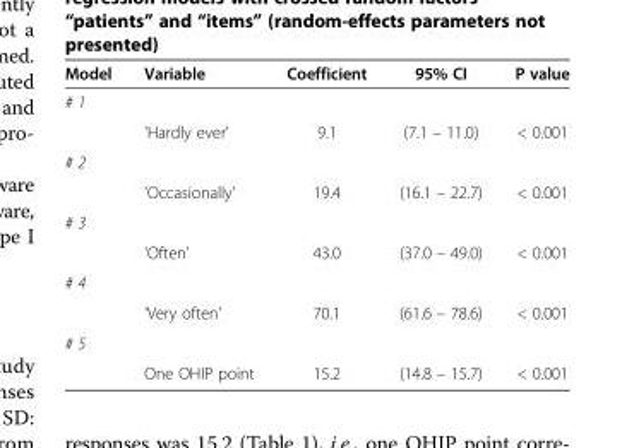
<table><thead><tr><td>Model</td><td>Variable</td><td>Coefficient</td><td>95% CI</td><td>P value</td></tr></thead><tbody><tr><td colspan="5"># 1</td></tr><tr><td></td><td>&#x27;Hardly ever&#x27;</td><td>9.1</td><td>(7.1 – 11.0)</td><td>&lt; 0.001</td></tr><tr><td colspan="5"># 2</td></tr><tr><td></td><td>&#x27;Occasionally&#x27;</td><td>19.4</td><td>(16.1 – 22.7)</td><td>&lt; 0.001</td></tr><tr><td colspan="5"># 3</td></tr><tr><td></td><td>&#x27;Often&#x27;</td><td>43.0</td><td>(37.0 – 49.0)</td><td>&lt; 0.001</td></tr><tr><td colspan="5"># 4</td></tr><tr><td></td><td>&#x27;Very often&#x27;</td><td>70.1</td><td>(61.6 – 78.6)</td><td>&lt; 0.001</td></tr><tr><td colspan="5"># 5</td></tr><tr><td></td><td>One OHIP point</td><td>15.2</td><td>(14.8 – 15.7)</td><td>&lt; 0.001</td></tr></tbody></table>